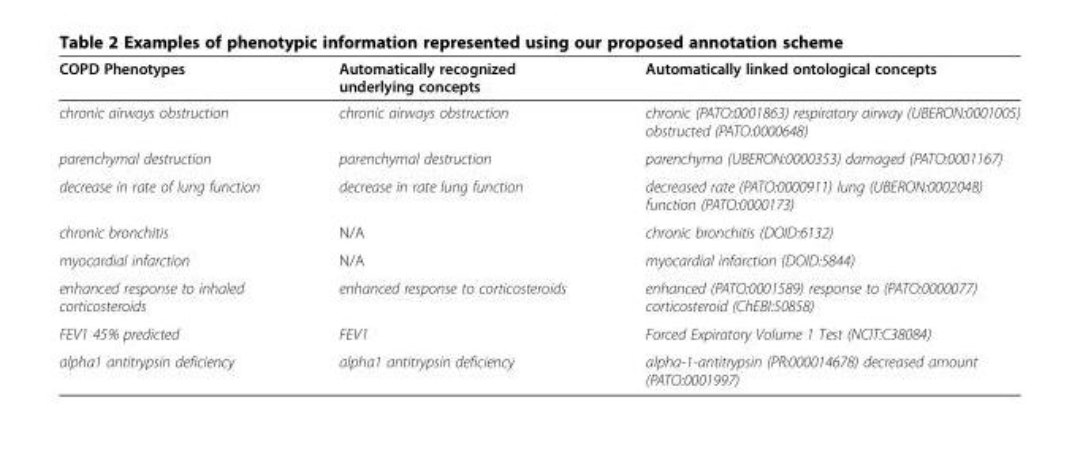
<table><thead><tr><td>COPD Phenotypes</td><td>Automatically recognized underlying concepts</td><td>Automatically linked ontological concepts</td></tr></thead><tbody><tr><td>chronic airways obstruction</td><td>chronic airways obstruction</td><td>chronic (PATO:0001863) respiratory airway (UBERON:0001005) obstructed (PATO:0000648)</td></tr><tr><td>parenchymal destruction</td><td>parenchymal destruction</td><td>parenchyma (UBERON:0000353) damaged (PATO:0001167)</td></tr><tr><td>decrease in rate of lung function</td><td>decrease in rate lung function</td><td>decreased rate (PATO:0000911) lung (UBERON:0002048) function (PATO:0000173)</td></tr><tr><td>chronic bronchitis</td><td>N/A</td><td>chronic bronchitis (DOID:6132)</td></tr><tr><td>myocardial infarction</td><td>N/A</td><td>myocardial infarction (DOID:5844)</td></tr><tr><td>enhanced response to inhaled corticosteroids</td><td>enhanced response to corticosteroids</td><td>enhanced (PATO:0001589) response to (PATO:0000077) corticosteroid (ChEBI:50858)</td></tr><tr><td>FEV1 45% predicted</td><td>FEV1</td><td>Forced Expiratory Volume 1 Test (NCIT:C38084)</td></tr><tr><td>alpha1 antitrypsin deficiency</td><td>alpha1 antitrypsin deficiency</td><td>alpha-1-antitrypsin (PR:000014678) decreased amount (PATO:0001997)</td></tr></tbody></table>